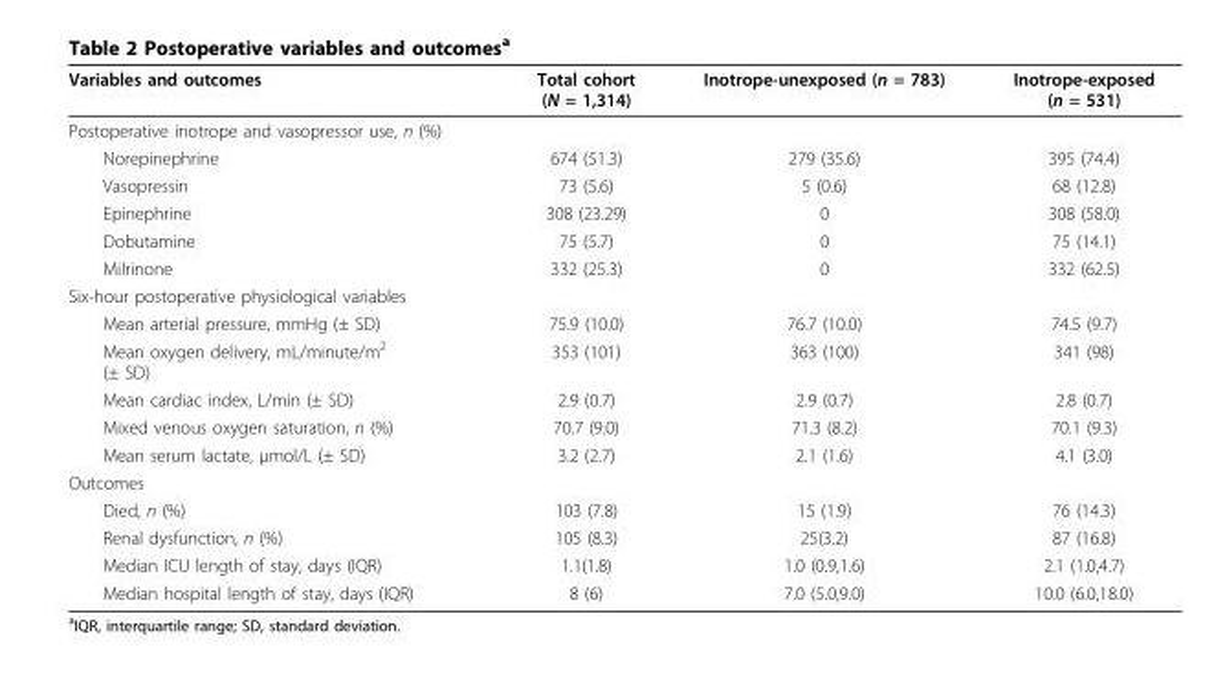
<table><thead><tr><td>Variables and outcomes</td><td>Total cohort (N = 1,314)</td><td>Inotrope-unexposed (n = 783)</td><td>Inotrope-exposed (n = 531)</td></tr></thead><tbody><tr><td colspan="4">Postoperative inotrope and vasopressor use, n (%)</td></tr><tr><td>Norepinephrine</td><td>674 (51.3)</td><td>279 (35.6)</td><td>395 (74.4)</td></tr><tr><td>Vasopressin</td><td>73 (5.6)</td><td>5 (0.6)</td><td>68 (12.8)</td></tr><tr><td>Epinephrine</td><td>308 (23.29)</td><td>0</td><td>308 (58.0)</td></tr><tr><td>Dobutamine</td><td>75 (5.7)</td><td>0</td><td>75 (14.1)</td></tr><tr><td>Milrinone</td><td>332 (25.3)</td><td>0</td><td>332 (62.5)</td></tr><tr><td colspan="4">Six-hour postoperative physiological variables</td></tr><tr><td>Mean arterial pressure, mmHg (± SD)</td><td>75.9 (10.0)</td><td>76.7 (10.0)</td><td>74.5 (9.7)</td></tr><tr><td>Mean oxygen delivery, mL/minute/m<sup>2</sup> (± SD)</td><td>353 (101)</td><td>363 (100)</td><td>341 (98)</td></tr><tr><td>Mean cardiac index, L/min (± SD)</td><td>2.9 (0.7)</td><td>2.9 (0.7)</td><td>2.8 (0.7)</td></tr><tr><td>Mixed venous oxygen saturation, n (%)</td><td>70.7 (9.0)</td><td>71.3 (8.2)</td><td>70.1 (9.3)</td></tr><tr><td>Mean serum lactate, μmol/L (± SD)</td><td>3.2 (2.7)</td><td>2.1 (1.6)</td><td>4.1 (3.0)</td></tr><tr><td colspan="4">Outcomes</td></tr><tr><td>Died, n (%)</td><td>103 (7.8)</td><td>15 (1.9)</td><td>76 (14.3)</td></tr><tr><td>Renal dysfunction, n (%)</td><td>105 (8.3)</td><td>25(3.2)</td><td>87 (16.8)</td></tr><tr><td>Median ICU length of stay, days (IQR)</td><td>1.1(1.8)</td><td>1.0 (0.9,1.6)</td><td>2.1 (1.0,4.7)</td></tr><tr><td>Median hospital length of stay, days (IQR)</td><td>8 (6)</td><td>7.0 (5.0,9.0)</td><td>10.0 (6.0,18.0)</td></tr></tbody></table>